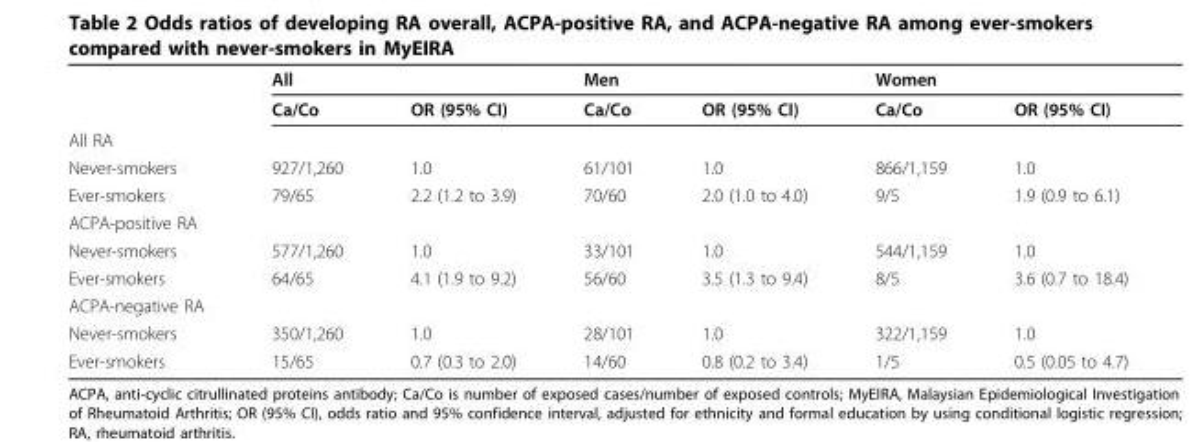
<table><thead><tr><td rowspan="2"></td><td colspan="2">All</td><td colspan="2">Men</td><td colspan="2">Women</td></tr><tr><td>Ca/Co</td><td>OR (95% CI)</td><td>Ca/Co</td><td>OR (95% CI)</td><td>Ca/Co</td><td>OR (95% CI)</td></tr></thead><tbody><tr><td colspan="7">All RA</td></tr><tr><td>Never-smokers</td><td>927/1,260</td><td>1.0</td><td>61/101</td><td>1.0</td><td>866/1,159</td><td>1.0</td></tr><tr><td>Ever-smokers</td><td>79/65</td><td>2.2 (1.2 to 3.9)</td><td>70/60</td><td>2.0 (1.0 to 4.0)</td><td>9/5</td><td>1.9 (0.9 to 6.1)</td></tr><tr><td colspan="7">ACPA-positive RA</td></tr><tr><td>Never-smokers</td><td>577/1,260</td><td>1.0</td><td>33/101</td><td>1.0</td><td>544/1,159</td><td>1.0</td></tr><tr><td>Ever-smokers</td><td>64/65</td><td>4.1 (1.9 to 9.2)</td><td>56/60</td><td>3.5 (1.3 to 9.4)</td><td>8/5</td><td>3.6 (0.7 to 18.4)</td></tr><tr><td colspan="7">ACPA-negative RA</td></tr><tr><td>Never-smokers</td><td>350/1,260</td><td>1.0</td><td>28/101</td><td>1.0</td><td>322/1,159</td><td>1.0</td></tr><tr><td>Ever-smokers</td><td>15/65</td><td>0.7 (0.3 to 2.0)</td><td>14/60</td><td>0.8 (0.2 to 3.4)</td><td>1/5</td><td>0.5 (0.05 to 4.7)</td></tr></tbody></table>